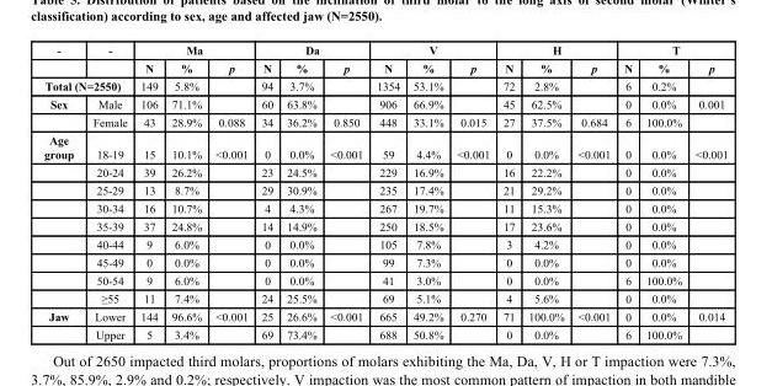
<table><thead><tr><td rowspan="2">-</td><td rowspan="2">-</td><td colspan="3">Ma</td><td colspan="3">Da</td><td colspan="3">V</td><td colspan="3">H</td><td colspan="3">T</td></tr><tr><td>N</td><td>%</td><td>p</td><td>N</td><td>%</td><td>p</td><td>N</td><td>%</td><td>p</td><td>N</td><td>%</td><td>p</td><td>N</td><td>%</td><td>p</td></tr></thead><tbody><tr><td colspan="2">Total (N=2550)</td><td>149</td><td>5.8%</td><td></td><td>94</td><td>3.7%</td><td></td><td>1354</td><td>53.1%</td><td></td><td>72</td><td>2.8%</td><td></td><td>6</td><td>0.2%</td><td></td></tr><tr><td rowspan="2">Sex</td><td>Male</td><td>106</td><td>71.1%</td><td></td><td>60</td><td>63.8%</td><td></td><td>906</td><td>66.9%</td><td></td><td>45</td><td>62.5%</td><td></td><td>0</td><td>0.0%</td><td>0.001</td></tr><tr><td>Female</td><td>43</td><td>28.9%</td><td>0.088</td><td>34</td><td>36.2%</td><td>0.850</td><td>448</td><td>33.1%</td><td>0.015</td><td>27</td><td>37.5%</td><td>0.684</td><td>6</td><td>100.0%</td><td></td></tr><tr><td rowspan="9">Age group</td><td>18-19</td><td>15</td><td>10.1%</td><td>&lt;0.001</td><td>0</td><td>0.0%</td><td>&lt;0.001</td><td>59</td><td>4.4%</td><td>&lt;0.001</td><td>0</td><td>0.0%</td><td>&lt;0.001</td><td>0</td><td>0.0%</td><td>&lt;0.001</td></tr><tr><td>20-24</td><td>39</td><td>26.2%</td><td></td><td>23</td><td>24.5%</td><td></td><td>229</td><td>16.9%</td><td></td><td>16</td><td>22.2%</td><td></td><td>0</td><td>0.0%</td><td></td></tr><tr><td>25-29</td><td>13</td><td>8.7%</td><td></td><td>29</td><td>30.9%</td><td></td><td>235</td><td>17.4%</td><td></td><td>21</td><td>29.2%</td><td></td><td>0</td><td>0.0%</td><td></td></tr><tr><td>30-34</td><td>16</td><td>10.7%</td><td></td><td>4</td><td>4.3%</td><td></td><td>267</td><td>19.7%</td><td></td><td>11</td><td>15.3%</td><td></td><td>0</td><td>0.0%</td><td></td></tr><tr><td>35-39</td><td>37</td><td>24.8%</td><td></td><td>14</td><td>14.9%</td><td></td><td>250</td><td>18.5%</td><td></td><td>17</td><td>23.6%</td><td></td><td>0</td><td>0.0%</td><td></td></tr><tr><td>40-44</td><td>9</td><td>6.0%</td><td></td><td>0</td><td>0.0%</td><td></td><td>105</td><td>7.8%</td><td></td><td>3</td><td>4.2%</td><td></td><td>0</td><td>0.0%</td><td></td></tr><tr><td>45-49</td><td>0</td><td>0.0%</td><td></td><td>0</td><td>0.0%</td><td></td><td>99</td><td>7.3%</td><td></td><td>0</td><td>0.0%</td><td></td><td>0</td><td>0.0%</td><td></td></tr><tr><td>50-54</td><td>9</td><td>6.0%</td><td></td><td>0</td><td>0.0%</td><td></td><td>41</td><td>3.0%</td><td></td><td>0</td><td>0.0%</td><td></td><td>6</td><td>100.0%</td><td></td></tr><tr><td>≥55</td><td>11</td><td>7.4%</td><td></td><td>24</td><td>25.5%</td><td></td><td>69</td><td>5.1%</td><td></td><td>4</td><td>5.6%</td><td></td><td>0</td><td>0.0%</td><td></td></tr><tr><td rowspan="2">Jaw</td><td>Lower</td><td>144</td><td>96.6%</td><td>&lt;0.001</td><td>25</td><td>26.6%</td><td>&lt;0.001</td><td>665</td><td>49.2%</td><td>0.270</td><td>71</td><td>100.0%</td><td>&lt;0.001</td><td>0</td><td>0.0%</td><td>0.014</td></tr><tr><td>Upper</td><td>5</td><td>3.4%</td><td></td><td>69</td><td>73.4%</td><td></td><td>688</td><td>50.8%</td><td></td><td>0</td><td>0.0%</td><td></td><td>6</td><td>100.0%</td><td></td></tr></tbody></table>